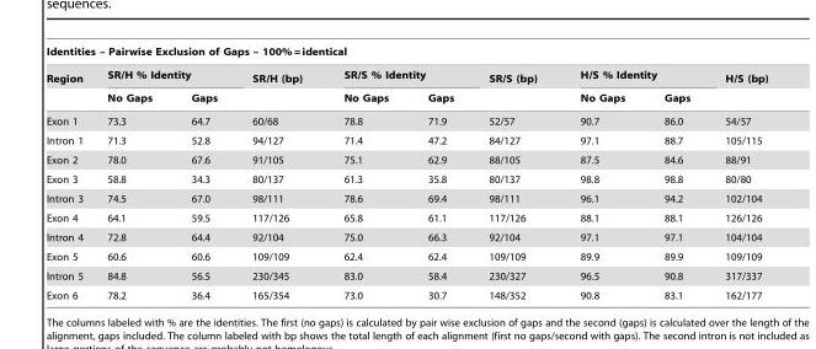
<table><thead><tr><td colspan="10">Identities – Pairwise Exclusion of Gaps – 100% = identical</td></tr><tr><td rowspan="2">Region</td><td colspan="2">SR/H % Identity</td><td rowspan="2">SR/H (bp)</td><td colspan="2">SR/S % Identity</td><td rowspan="2">SR/S (bp)</td><td colspan="2">H/S % Identity</td><td rowspan="2">H/S (bp)</td></tr><tr><td>No Gaps</td><td>Gaps</td><td>No Gaps</td><td>Gaps</td><td>No Gaps</td><td>Gaps</td></tr></thead><tbody><tr><td>Exon 1</td><td>73.3</td><td>64.7</td><td>60/68</td><td>78.8</td><td>71.9</td><td>52/57</td><td>90.7</td><td>86.0</td><td>54/57</td></tr><tr><td>Intron 1</td><td>71.3</td><td>52.8</td><td>94/127</td><td>71.4</td><td>47.2</td><td>84/127</td><td>97.1</td><td>88.7</td><td>105/115</td></tr><tr><td>Exon 2</td><td>78.0</td><td>67.6</td><td>91/105</td><td>75.1</td><td>62.9</td><td>88/105</td><td>87.5</td><td>84.6</td><td>88/91</td></tr><tr><td>Exon 3</td><td>58.8</td><td>34.3</td><td>80/137</td><td>61.3</td><td>35.8</td><td>80/137</td><td>98.8</td><td>98.8</td><td>80/80</td></tr><tr><td>Intron 3</td><td>74.5</td><td>67.0</td><td>98/111</td><td>78.6</td><td>69.4</td><td>98/111</td><td>96.1</td><td>94.2</td><td>102/104</td></tr><tr><td>Exon 4</td><td>64.1</td><td>59.5</td><td>117/126</td><td>65.8</td><td>61.1</td><td>117/126</td><td>88.1</td><td>88.1</td><td>126/126</td></tr><tr><td>Intron 4</td><td>72.8</td><td>64.4</td><td>92/104</td><td>75.0</td><td>66.3</td><td>92/104</td><td>97.1</td><td>97.1</td><td>104/104</td></tr><tr><td>Exon 5</td><td>60.6</td><td>60.6</td><td>109/109</td><td>62.4</td><td>62.4</td><td>109/109</td><td>89.9</td><td>89.9</td><td>109/109</td></tr><tr><td>Intron 5</td><td>84.8</td><td>56.5</td><td>230/345</td><td>83.0</td><td>58.4</td><td>230/327</td><td>96.5</td><td>90.8</td><td>317/337</td></tr><tr><td>Exon 6</td><td>78.2</td><td>36.4</td><td>165/354</td><td>73.0</td><td>30.7</td><td>148/352</td><td>90.8</td><td>83.1</td><td>162/177</td></tr></tbody></table>